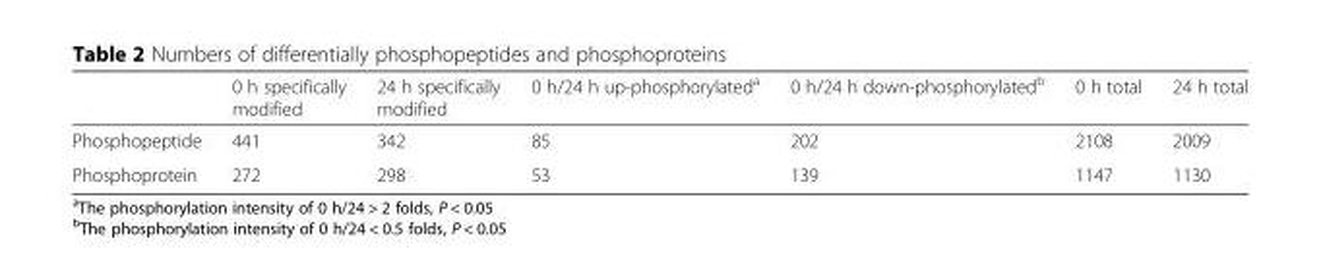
<table><thead><tr><td></td><td>0 h specifically modified</td><td>24 h specifically modified</td><td>0 h/24 h up-phosphorylated<sup>a</sup></td><td>0 h/24 h down-phosphorylated<sup>b</sup></td><td>0 h total</td><td>24 h total</td></tr></thead><tbody><tr><td>Phosphopeptide</td><td>441</td><td>342</td><td>85</td><td>202</td><td>2108</td><td>2009</td></tr><tr><td>Phosphoprotein</td><td>272</td><td>298</td><td>53</td><td>139</td><td>1147</td><td>1130</td></tr></tbody></table>